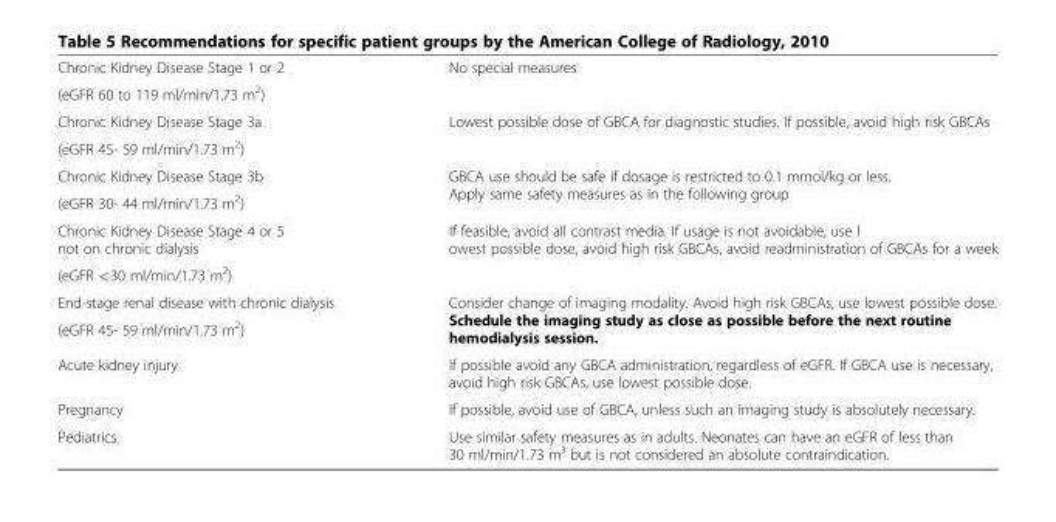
<table><tbody><tr><td>Chronic Kidney Disease Stage 1 or 2</td><td rowspan="2">No special measures</td></tr><tr><td>(eGFR 60 to 119 ml/min/1.73 m<sup>2</sup>)</td></tr><tr><td>Chronic Kidney Disease Stage 3a</td><td rowspan="2">Lowest possible dose of GBCA for diagnostic studies. If possible, avoid high risk GBCAs</td></tr><tr><td>(eGFR 45- 59 ml/min/1.73 m<sup>2</sup>)</td></tr><tr><td>Chronic Kidney Disease Stage 3b</td><td rowspan="2">GBCA use should be safe if dosage is restricted to 0.1 mmol/kg or less. Apply same safety measures as in the following group</td></tr><tr><td>(eGFR 30- 44 ml/min/1.73 m<sup>2</sup>)</td></tr><tr><td>Chronic Kidney Disease Stage 4 or 5 not on chronic dialysis</td><td rowspan="2">If feasible, avoid all contrast media. If usage is not avoidable, use l owest possible dose, avoid high risk GBCAs, avoid readministration of GBCAs for a week</td></tr><tr><td>(eGFR &lt;30 ml/min/1.73 m<sup>2</sup>)</td></tr><tr><td>End-stage renal disease with chronic dialysis</td><td rowspan="2">Consider change of imaging modality. Avoid high risk GBCAs, use lowest possible dose. Schedule the imaging study as close as possible before the next routine hemodialysis session.</td></tr><tr><td>(eGFR 45- 59 ml/min/1.73 m<sup>2</sup>)</td></tr><tr><td>Acute kidney injury</td><td>If possible avoid any GBCA administration, regardless of eGFR. If GBCA use is necessary, avoid high risk GBCAs, use lowest possible dose.</td></tr><tr><td>Pregnancy</td><td>If possible, avoid use of GBCA, unless such an imaging study is absolutely necessary.</td></tr><tr><td>Pediatrics</td><td>Use similar safety measures as in adults. Neonates can have an eGFR of less than 30 ml/min/1.73 m³ but is not considered an absolute contraindication.</td></tr></tbody></table>